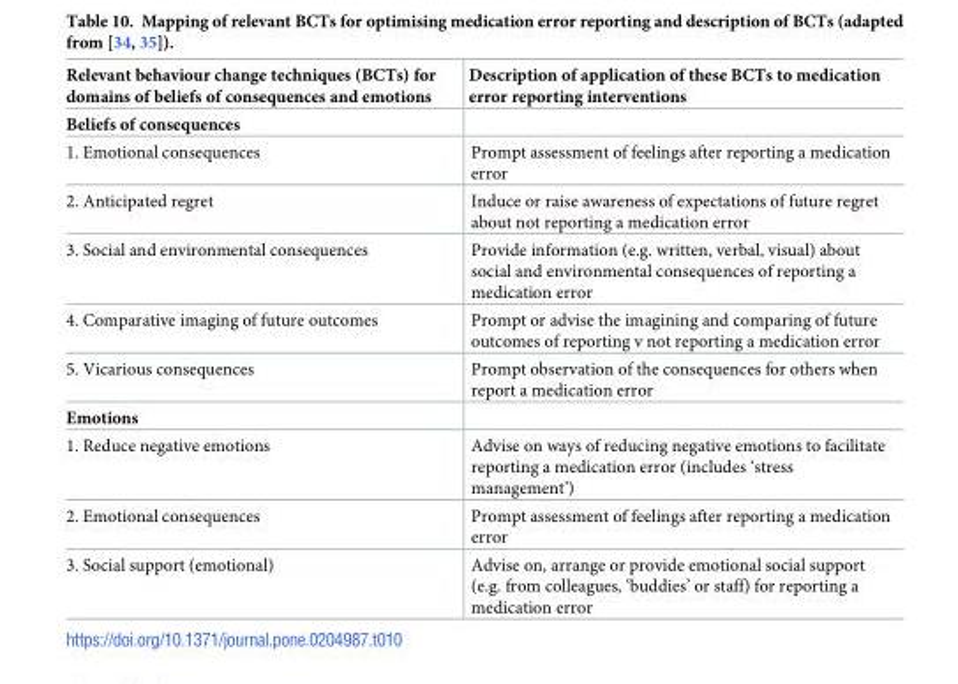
<table><thead><tr><td>Relevant behaviour change techniques (BCTs) for domains of beliefs of consequences and emotions</td><td>Description of application of these BCTs to medication error reporting interventions</td></tr></thead><tbody><tr><td colspan="2">Beliefs of consequences</td></tr><tr><td>1. Emotional consequences</td><td>Prompt assessment of feelings after reporting a medication error</td></tr><tr><td>2. Anticipated regret</td><td>Induce or raise awareness of expectations of future regret about not reporting a medication error</td></tr><tr><td>3. Social and environmental consequences</td><td>Provide information (e.g. written, verbal, visual) about social and environmental consequences of reporting a medication error</td></tr><tr><td>4. Comparative imaging of future outcomes</td><td>Prompt or advise the imagining and comparing of future outcomes of reporting v not reporting a medication error</td></tr><tr><td>5. Vicarious consequences</td><td>Prompt observation of the consequences for others when report a medication error</td></tr><tr><td colspan="2">Emotions</td></tr><tr><td>1. Reduce negative emotions</td><td>Advise on ways of reducing negative emotions to facilitate reporting a medication error (includes ‘stress management’)</td></tr><tr><td>2. Emotional consequences</td><td>Prompt assessment of feelings after reporting a medication error</td></tr><tr><td>3. Social support (emotional)</td><td>Advise on, arrange or provide emotional social support (e.g. from colleagues, ‘buddies’ or staff) for reporting a medication error</td></tr></tbody></table>